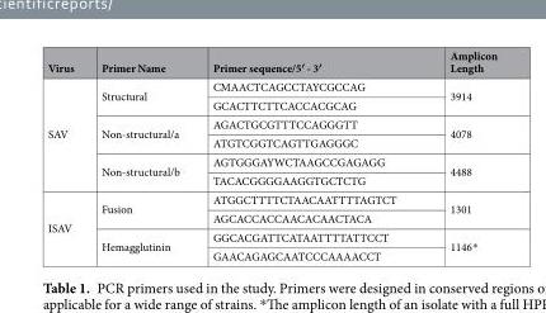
<table><thead><tr><td>Virus</td><td>Primer Name</td><td>Primer sequence/5′ - 3′</td><td>Amplicon Length</td></tr></thead><tbody><tr><td rowspan="6">SAV</td><td rowspan="2">Structural</td><td>CMAACTCAGCCTAYCGCCAG</td><td rowspan="2">3914</td></tr><tr><td>GCACTTCTTCACCACGCAG</td></tr><tr><td rowspan="2">Non-structural/a</td><td>AGACTGCGTTTCCAGGGTT</td><td rowspan="2">4078</td></tr><tr><td>ATGTCGGTCAGTTGAGGGC</td></tr><tr><td rowspan="2">Non-structural/b</td><td>AGTGGGAYWCTAAGCCGAGAGG</td><td rowspan="2">4488</td></tr><tr><td>TACACGGGGAAGGTGCTCTG</td></tr><tr><td rowspan="4">ISAV</td><td rowspan="2">Fusion</td><td>ATGGCTTTTCTAACAATTTTAGTCT</td><td rowspan="2">1301</td></tr><tr><td>AGCACCACCAACACAACTACA</td></tr><tr><td rowspan="2">Hemagglutinin</td><td>GGCACGATTCATAATTTTATTCCT</td><td rowspan="2">1146*</td></tr><tr><td>GAACAGAGCAATCCCAAAACCT</td></tr></tbody></table>